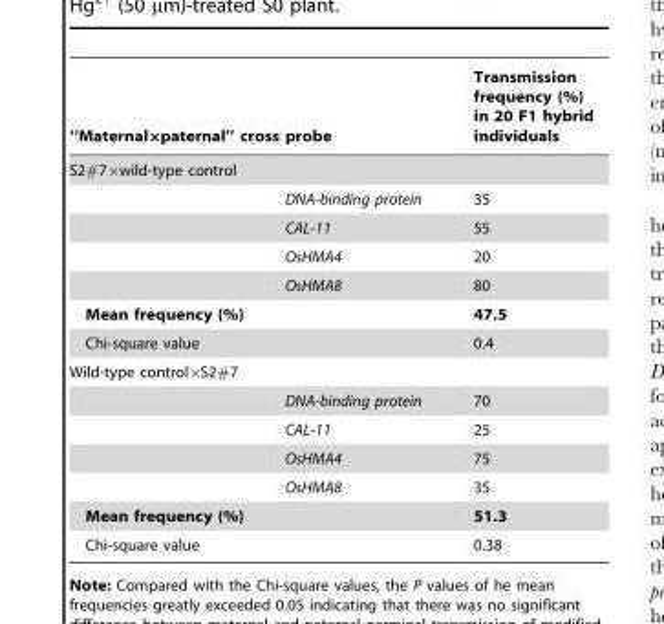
<table><thead><tr><td>‘‘Maternal6paternal’’ cross</td><td>probe</td><td>Transmission frequency (%) in 20 F1 hybrid individuals</td></tr></thead><tbody><tr><td colspan="3">S2#7×wild-type control</td></tr><tr><td></td><td>DNA-binding protein</td><td>35</td></tr><tr><td></td><td>CAL-11</td><td>55</td></tr><tr><td></td><td>OsHMA4</td><td>20</td></tr><tr><td></td><td>OsHMA8</td><td>80</td></tr><tr><td>Mean frequency (%)</td><td></td><td>47.5</td></tr><tr><td>Chi-square value</td><td></td><td>0.4</td></tr><tr><td colspan="3">Wild-type control×S2#7</td></tr><tr><td></td><td>DNA-binding protein</td><td>70</td></tr><tr><td></td><td>CAL-11</td><td>25</td></tr><tr><td></td><td>OsHMA4</td><td>75</td></tr><tr><td></td><td>OsHMA8</td><td>35</td></tr><tr><td>Mean frequency (%)</td><td></td><td>51.3</td></tr><tr><td>Chi-square value</td><td></td><td>0.38</td></tr></tbody></table>